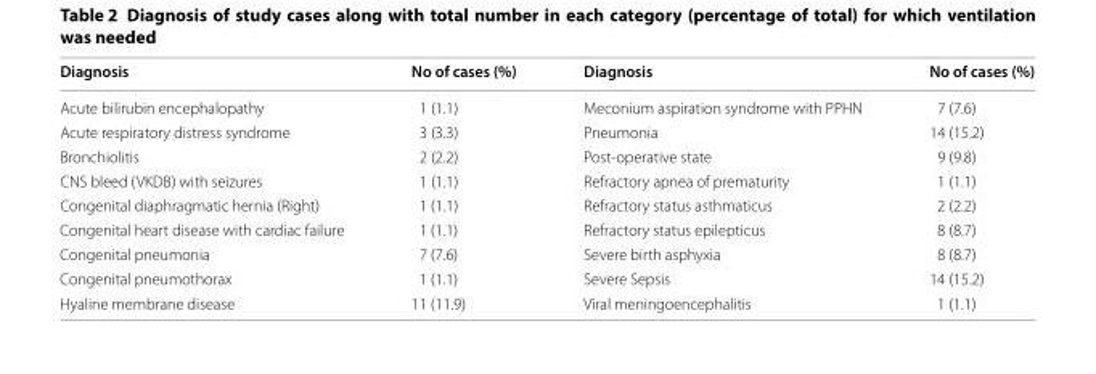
<table><thead><tr><td>Diagnosis</td><td>No of cases (%)</td><td>Diagnosis</td><td>No of cases (%)</td></tr></thead><tbody><tr><td>Acute bilirubin encephalopathy</td><td>1 (1.1)</td><td>Meconium aspiration syndrome with PPHN</td><td>7 (7.6)</td></tr><tr><td>Acute respiratory distress syndrome</td><td>3 (3.3)</td><td>Pneumonia</td><td>14 (15.2)</td></tr><tr><td>Bronchiolitis</td><td>2 (2.2)</td><td>Post-operative state</td><td>9 (9.8)</td></tr><tr><td>CNS bleed (VKDB) with seizures</td><td>1 (1.1)</td><td>Refractory apnea of prematurity</td><td>1 (1.1)</td></tr><tr><td>Congenital diaphragmatic hernia (Right)</td><td>1 (1.1)</td><td>Refractory status asthmaticus</td><td>2 (2.2)</td></tr><tr><td>Congenital heart disease with cardiac failure</td><td>1 (1.1)</td><td>Refractory status epilepticus</td><td>8 (8.7)</td></tr><tr><td>Congenital pneumonia</td><td>7 (7.6)</td><td>Severe birth asphyxia</td><td>8 (8.7)</td></tr><tr><td>Congenital pneumothorax</td><td>1 (1.1)</td><td>Severe Sepsis</td><td>14 (15.2)</td></tr><tr><td>Hyaline membrane disease</td><td>11 (11.9)</td><td>Viral meningoencephalitis</td><td>1 (1.1)</td></tr></tbody></table>